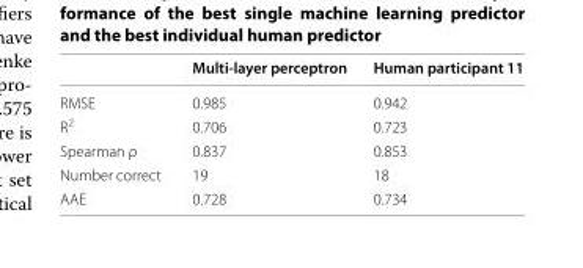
<table><thead><tr><td></td><td>Multi‑layer perceptron</td><td>Human participant 11</td></tr></thead><tbody><tr><td>RMSE</td><td>0.985</td><td>0.942</td></tr><tr><td>R<sup>2</sup></td><td>0.706</td><td>0.723</td></tr><tr><td>Spearman ρ</td><td>0.837</td><td>0.853</td></tr><tr><td>Number correct</td><td>19</td><td>18</td></tr><tr><td>AAE</td><td>0.728</td><td>0.734</td></tr></tbody></table>